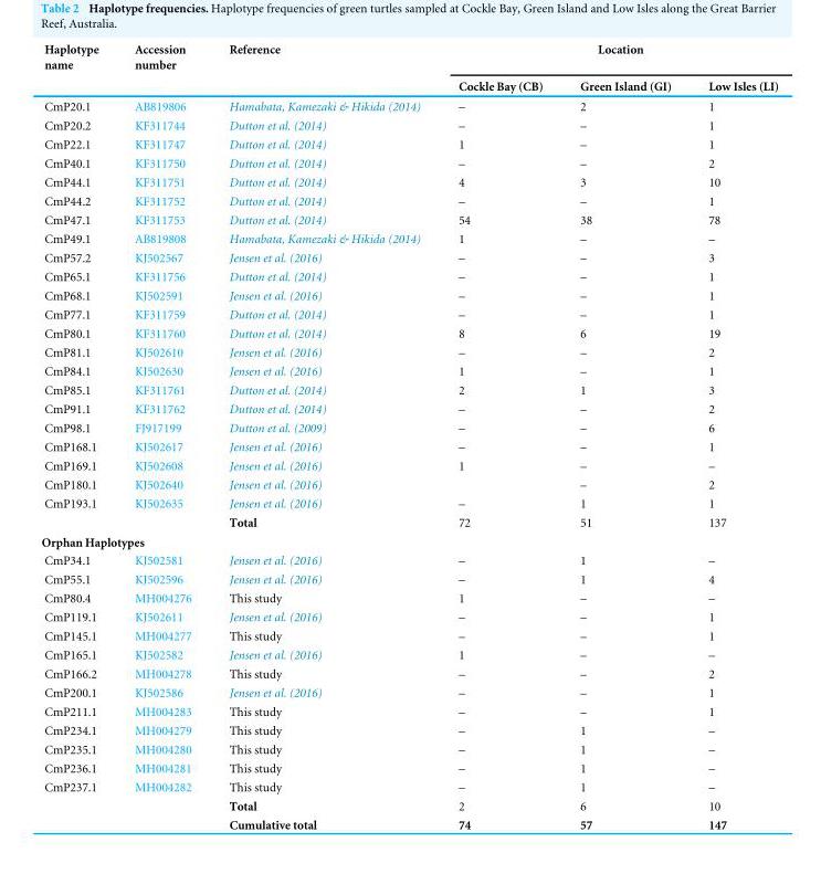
<table><thead><tr><td rowspan="2">Haplotype name</td><td rowspan="2">Accession number</td><td rowspan="2">Reference</td><td colspan="3">Location</td></tr><tr><td>Cockle Bay (CB)</td><td>Green Island (GI)</td><td>Low Isles (LI)</td></tr></thead><tbody><tr><td>CmP20.1</td><td>AB819806</td><td>Hamabata, Kamezaki &amp; Hikida (2014)</td><td>–</td><td>2</td><td>1</td></tr><tr><td>CmP20.2</td><td>KF311744</td><td>Dutton et al. (2014)</td><td>–</td><td>–</td><td>1</td></tr><tr><td>CmP22.1</td><td>KF311747</td><td>Dutton et al. (2014)</td><td>1</td><td>–</td><td>1</td></tr><tr><td>CmP40.1</td><td>KF311750</td><td>Dutton et al. (2014)</td><td>–</td><td>–</td><td>2</td></tr><tr><td>CmP44.1</td><td>KF311751</td><td>Dutton et al. (2014)</td><td>4</td><td>3</td><td>10</td></tr><tr><td>CmP44.2</td><td>KF311752</td><td>Dutton et al. (2014)</td><td>–</td><td>–</td><td>1</td></tr><tr><td>CmP47.1</td><td>KF311753</td><td>Dutton et al. (2014)</td><td>54</td><td>38</td><td>78</td></tr><tr><td>CmP49.1</td><td>AB819808</td><td>Hamabata, Kamezaki &amp; Hikida (2014)</td><td>1</td><td>–</td><td>–</td></tr><tr><td>CmP57.2</td><td>KJ502567</td><td>Jensen et al. (2016)</td><td>–</td><td>–</td><td>3</td></tr><tr><td>CmP65.1</td><td>KF311756</td><td>Dutton et al. (2014)</td><td>–</td><td>–</td><td>1</td></tr><tr><td>CmP68.1</td><td>KJ502591</td><td>Jensen et al. (2016)</td><td>–</td><td>–</td><td>1</td></tr><tr><td>CmP77.1</td><td>KF311759</td><td>Dutton et al. (2014)</td><td>–</td><td>–</td><td>1</td></tr><tr><td>CmP80.1</td><td>KF311760</td><td>Dutton et al. (2014)</td><td>8</td><td>6</td><td>19</td></tr><tr><td>CmP81.1</td><td>KJ502610</td><td>Jensen et al. (2016)</td><td>–</td><td>–</td><td>2</td></tr><tr><td>CmP84.1</td><td>KJ502630</td><td>Jensen et al. (2016)</td><td>1</td><td>–</td><td>1</td></tr><tr><td>CmP85.1</td><td>KF311761</td><td>Dutton et al. (2014)</td><td>2</td><td>1</td><td>3</td></tr><tr><td>CmP91.1</td><td>KF311762</td><td>Dutton et al. (2014)</td><td>–</td><td>–</td><td>2</td></tr><tr><td>CmP98.1</td><td>FJ917199</td><td>Dutton et al. (2009)</td><td>–</td><td>–</td><td>6</td></tr><tr><td>CmP168.1</td><td>KJ502617</td><td>Jensen et al. (2016)</td><td>–</td><td>–</td><td>1</td></tr><tr><td>CmP169.1</td><td>KJ502608</td><td>Jensen et al. (2016)</td><td>1</td><td>–</td><td>–</td></tr><tr><td>CmP180.1</td><td>KJ502640</td><td>Jensen et al. (2016)</td><td></td><td>–</td><td>2</td></tr><tr><td rowspan="2">CmP193.1</td><td>KJ502635</td><td>Jensen et al. (2016)</td><td>–</td><td>1</td><td>1</td></tr><tr><td></td><td>Total</td><td>72</td><td>51</td><td>137</td></tr><tr><td colspan="6">Orphan Haplotypes</td></tr><tr><td>CmP34.1</td><td>KJ502581</td><td>Jensen et al. (2016)</td><td>–</td><td>1</td><td>–</td></tr><tr><td>CmP55.1</td><td>KJ502596</td><td>Jensen et al. (2016)</td><td>–</td><td>1</td><td>4</td></tr><tr><td>CmP80.4</td><td>MH004276</td><td>This study</td><td>1</td><td>–</td><td>–</td></tr><tr><td>CmP119.1</td><td>KJ502611</td><td>Jensen et al. (2016)</td><td>–</td><td>–</td><td>1</td></tr><tr><td>CmP145.1</td><td>MH004277</td><td>This study</td><td>–</td><td>–</td><td>1</td></tr><tr><td>CmP165.1</td><td>KJ502582</td><td>Jensen et al. (2016)</td><td>1</td><td>–</td><td>–</td></tr><tr><td>CmP166.2</td><td>MH004278</td><td>This study</td><td>–</td><td>–</td><td>2</td></tr><tr><td>CmP200.1</td><td>KJ502586</td><td>Jensen et al. (2016)</td><td>–</td><td>–</td><td>1</td></tr><tr><td>CmP211.1</td><td>MH004283</td><td>This study</td><td>–</td><td>–</td><td>1</td></tr><tr><td>CmP234.1</td><td>MH004279</td><td>This study</td><td>–</td><td>1</td><td>–</td></tr><tr><td>CmP235.1</td><td>MH004280</td><td>This study</td><td>–</td><td>1</td><td>–</td></tr><tr><td>CmP236.1</td><td>MH004281</td><td>This study</td><td>–</td><td>1</td><td>–</td></tr><tr><td rowspan="3">CmP237.1</td><td>MH004282</td><td>This study</td><td>–</td><td>1</td><td>–</td></tr><tr><td></td><td>Total</td><td>2</td><td>6</td><td>10</td></tr><tr><td></td><td>Cumulative total</td><td>74</td><td>57</td><td>147</td></tr></tbody></table>